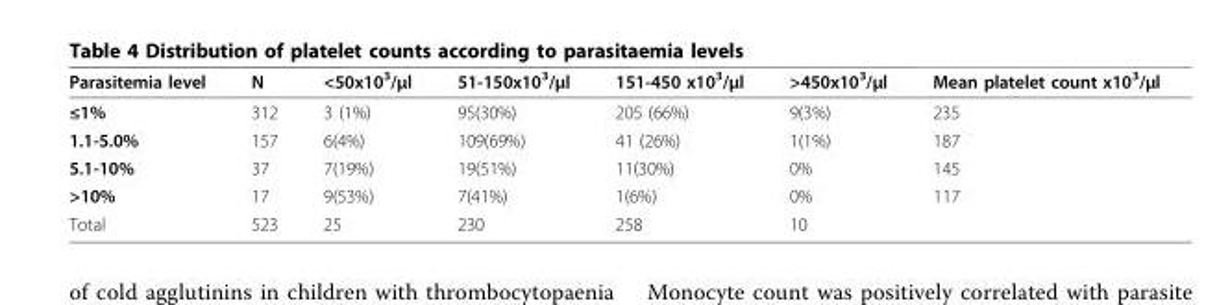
<table><thead><tr><td>Parasitemia level</td><td>N</td><td>&lt;50x10<sup>3</sup>/μl</td><td>51-150x10<sup>3</sup>/μl</td><td>151-450 x10<sup>3</sup>/μl</td><td>&gt;450x10<sup>3</sup>/μl</td><td>Mean platelet count x10<sup>3</sup>/μl</td></tr></thead><tbody><tr><td>≤1%</td><td>312</td><td>3 (1%)</td><td>95(30%)</td><td>205 (66%)</td><td>9(3%)</td><td>235</td></tr><tr><td>1.1-5.0%</td><td>157</td><td>6(4%)</td><td>109(69%)</td><td>41 (26%)</td><td>1(1%)</td><td>187</td></tr><tr><td>5.1-10%</td><td>37</td><td>7(19%)</td><td>19(51%)</td><td>11(30%)</td><td>0%</td><td>145</td></tr><tr><td>&gt;10%</td><td>17</td><td>9(53%)</td><td>7(41%)</td><td>1(6%)</td><td>0%</td><td>117</td></tr><tr><td>Total</td><td>523</td><td>25</td><td>230</td><td>258</td><td>10</td><td></td></tr></tbody></table>